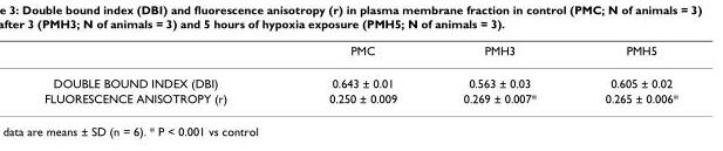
<table><thead><tr><td></td><td>PMC</td><td>PMH3</td><td>PMH5</td></tr></thead><tbody><tr><td>DOUBLE BOUND INDEX (DBI)</td><td>0.643 ± 0.01</td><td>0.563 ± 0.03</td><td>0.605 ± 0.02</td></tr><tr><td>FLUORESCENCE ANISOTROPY (r)</td><td>0.250 ± 0.009</td><td>0.269 ± 0.007*</td><td>0.265 ± 0.006*</td></tr></tbody></table>